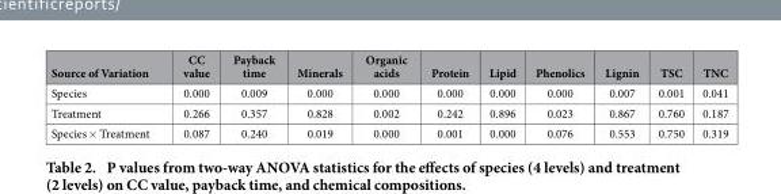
<table><thead><tr><td>Source of Variation</td><td>CC value</td><td>Payback time</td><td>Minerals</td><td>Organic acids</td><td>Protein</td><td>Lipid</td><td>Phenolics</td><td>Lignin</td><td>TSC</td><td>TNC</td></tr></thead><tbody><tr><td>Species</td><td>0.000</td><td>0.009</td><td>0.000</td><td>0.000</td><td>0.000</td><td>0.000</td><td>0.000</td><td>0.007</td><td>0.001</td><td>0.041</td></tr><tr><td>Treatment</td><td>0.266</td><td>0.357</td><td>0.828</td><td>0.002</td><td>0.242</td><td>0.896</td><td>0.023</td><td>0.867</td><td>0.760</td><td>0.187</td></tr><tr><td>Species × Treatment</td><td>0.087</td><td>0.240</td><td>0.019</td><td>0.000</td><td>0.001</td><td>0.000</td><td>0.076</td><td>0.553</td><td>0.750</td><td>0.319</td></tr></tbody></table>